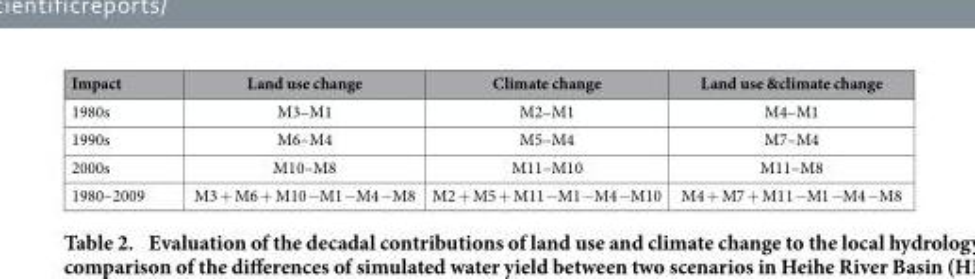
<table><thead><tr><td>Impact</td><td>Land use change</td><td>Climate change</td><td>Land use &amp;climate change</td></tr></thead><tbody><tr><td>1980s</td><td>M3–M1</td><td>M2–M1</td><td>M4–M1</td></tr><tr><td>1990s</td><td>M6–M4</td><td>M5–M4</td><td>M7–M4</td></tr><tr><td>2000s</td><td>M10–M8</td><td>M11–M10</td><td>M11–M8</td></tr><tr><td>1980–2009</td><td>M3 + M6 + M10−M1−M4−M8</td><td>M2 + M5 + M11−M1−M4−M10</td><td>M4 + M7 + M11−M1−M4−M8</td></tr></tbody></table>